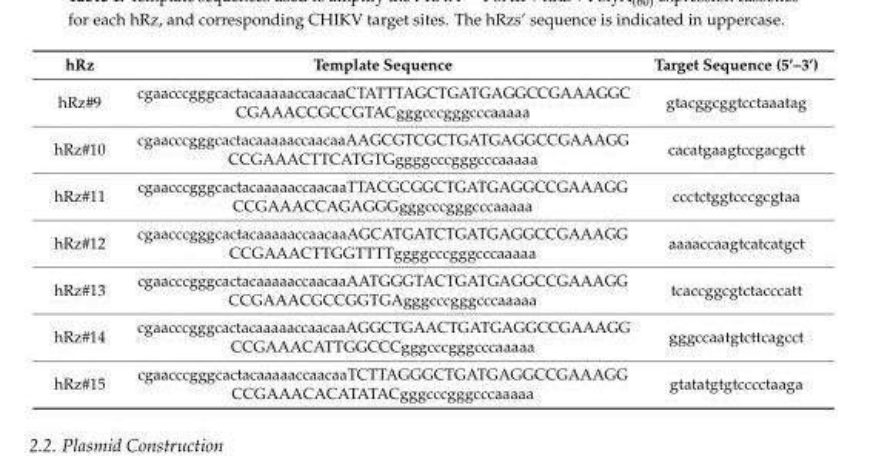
<table><thead><tr><td>hRz</td><td>Template Sequence</td><td>Target Sequence (5’–3’)</td></tr></thead><tbody><tr><td>hRz#9</td><td>cgaacccgggcactacaaaaaccaacaaCTATTTAGCTGATGAGGCCGAAAGGC CGAAACCGCCGTACgggcccgggcccaaaaa</td><td>gtacggcggtcctaaatag</td></tr><tr><td>hRz#10</td><td>cgaacccgggcactacaaaaaccaacaaAAGCGTCGCTGATGAGGCCGAAAGG CCGAAACTTCATGTGggggcccgggcccaaaaa</td><td>cacatgaagtccgacgctt</td></tr><tr><td>hRz#11</td><td>cgaacccgggcactacaaaaaccaacaaTTACGCGGCTGATGAGGCCGAAAGG CCGAAACCAGAGGGgggcccgggcccaaaaa</td><td>ccctctggtcccgcgtaa</td></tr><tr><td>hRz#12</td><td>cgaacccgggcactacaaaaaccaacaaAGCATGATCTGATGAGGCCGAAAGG CCGAAACTTGGTTTTggggcccgggcccaaaaa</td><td>aaaaccaagtcatcatgct</td></tr><tr><td>hRz#13</td><td>cgaacccgggcactacaaaaaccaacaaAATGGGTACTGATGAGGCCGAAAGG CCGAAACGCCGGTGAgggcccgggcccaaaaa</td><td>tcaccggcgtctacccatt</td></tr><tr><td>hRz#14</td><td>cgaacccgggcactacaaaaaccaacaaAGGCTGAACTGATGAGGCCGAAAGG CCGAAACATTGGCCCgggcccgggcccaaaaa</td><td>gggccaatgtcttcagcct</td></tr><tr><td>hRz#15</td><td>cgaacccgggcactacaaaaaccaacaaTCTTAGGGCTGATGAGGCCGAAAGG CCGAAACACATATACgggcccgggcccaaaaa</td><td>gtatatgtgtcccctaaga</td></tr></tbody></table>